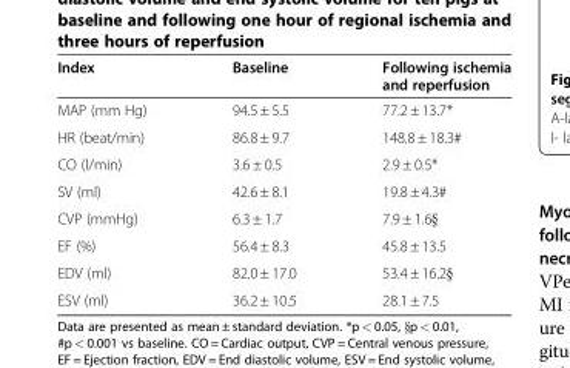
<table><thead><tr><td>Index</td><td>Baseline</td><td>Following ischemia and reperfusion</td></tr></thead><tbody><tr><td>MAP (mm Hg)</td><td>94.5 ± 5.5</td><td>77.2 ± 13.7*</td></tr><tr><td>HR (beat/min)</td><td>86.8 ± 9.7</td><td>148.8 ± 18.3#</td></tr><tr><td>CO (l/min)</td><td>3.6 ± 0.5</td><td>2.9 ± 0.5*</td></tr><tr><td>SV (ml)</td><td>42.6 ± 8.1</td><td>19.8 ± 4.3#</td></tr><tr><td>CVP (mmHg)</td><td>6.3 ± 1.7</td><td>7.9 ± 1.6§</td></tr><tr><td>EF (%)</td><td>56.4 ± 8.3</td><td>45.8 ± 13.5</td></tr><tr><td>EDV (ml)</td><td>82.0 ± 17.0</td><td>53.4 ± 16.2§</td></tr><tr><td>ESV (ml)</td><td>36.2 ± 10.5</td><td>28.1 ± 7.5</td></tr></tbody></table>